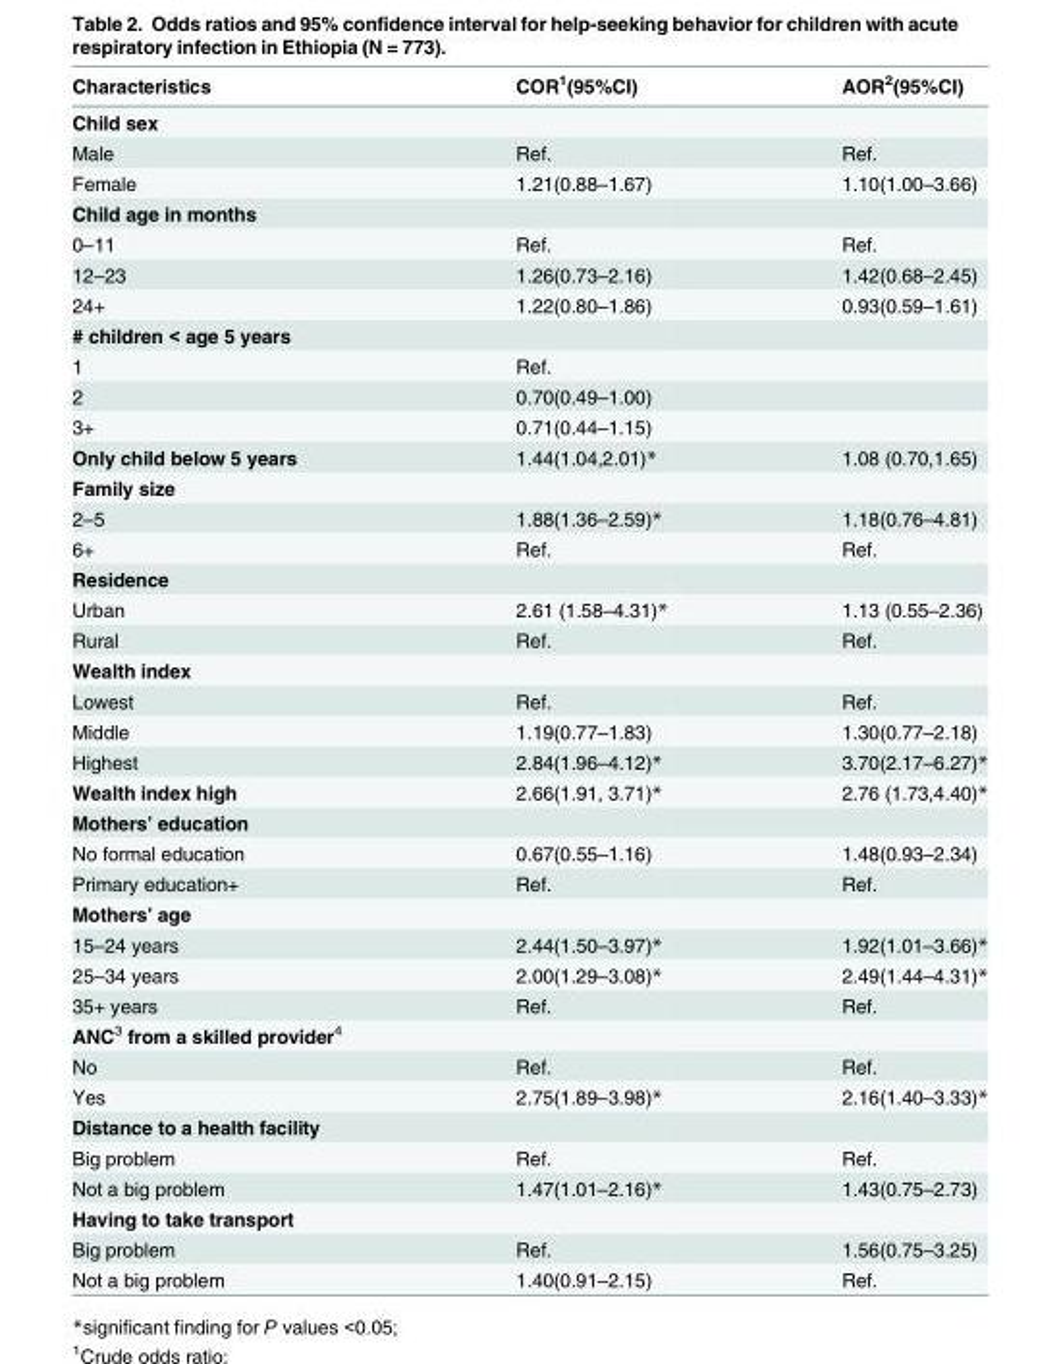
<table><thead><tr><td>Characteristics</td><td>COR<sup>1</sup>(95%CI)</td><td>AOR<sup>2</sup>(95%CI)</td></tr></thead><tbody><tr><td colspan="3">Child sex</td></tr><tr><td>Male</td><td>Ref.</td><td>Ref.</td></tr><tr><td>Female</td><td>1.21(0.88–1.67)</td><td>1.10(1.00–3.66)</td></tr><tr><td colspan="3">Child age in months</td></tr><tr><td>0–11</td><td>Ref.</td><td>Ref.</td></tr><tr><td>12–23</td><td>1.26(0.73–2.16)</td><td>1.42(0.68–2.45)</td></tr><tr><td>24+</td><td>1.22(0.80–1.86)</td><td>0.93(0.59–1.61)</td></tr><tr><td colspan="3"># children &lt; age 5 years</td></tr><tr><td>1</td><td>Ref.</td><td></td></tr><tr><td>2</td><td>0.70(0.49–1.00)</td><td></td></tr><tr><td>3+</td><td>0.71(0.44–1.15)</td><td></td></tr><tr><td>Only child below 5 years</td><td>1.44(1.04,2.01)*</td><td>1.08 (0.70,1.65)</td></tr><tr><td colspan="3">Family size</td></tr><tr><td>2–5</td><td>1.88(1.36–2.59)*</td><td>1.18(0.76–4.81)</td></tr><tr><td>6+</td><td>Ref.</td><td>Ref.</td></tr><tr><td colspan="3">Residence</td></tr><tr><td>Urban</td><td>2.61 (1.58–4.31)*</td><td>1.13 (0.55–2.36)</td></tr><tr><td>Rural</td><td>Ref.</td><td>Ref.</td></tr><tr><td colspan="3">Wealth index</td></tr><tr><td>Lowest</td><td>Ref.</td><td>Ref.</td></tr><tr><td>Middle</td><td>1.19(0.77–1.83)</td><td>1.30(0.77–2.18)</td></tr><tr><td>Highest</td><td>2.84(1.96–4.12)*</td><td>3.70(2.17–6.27)*</td></tr><tr><td>Wealth index high</td><td>2.66(1.91, 3.71)*</td><td>2.76 (1.73,4.40)*</td></tr><tr><td colspan="3">Mothers’ education</td></tr><tr><td>No formal education</td><td>0.67(0.55–1.16)</td><td>1.48(0.93–2.34)</td></tr><tr><td>Primary education+</td><td>Ref.</td><td>Ref.</td></tr><tr><td colspan="3">Mothers’ age</td></tr><tr><td>15–24 years</td><td>2.44(1.50–3.97)*</td><td>1.92(1.01–3.66)*</td></tr><tr><td>25–34 years</td><td>2.00(1.29–3.08)*</td><td>2.49(1.44–4.31)*</td></tr><tr><td>35+ years</td><td>Ref.</td><td>Ref.</td></tr><tr><td colspan="3">ANC<sup>3</sup> from a skilled provider<sup>4</sup></td></tr><tr><td>No</td><td>Ref.</td><td>Ref.</td></tr><tr><td>Yes</td><td>2.75(1.89–3.98)*</td><td>2.16(1.40–3.33)*</td></tr><tr><td colspan="3">Distance to a health facility</td></tr><tr><td>Big problem</td><td>Ref.</td><td>Ref.</td></tr><tr><td>Not a big problem</td><td>1.47(1.01–2.16)*</td><td>1.43(0.75–2.73)</td></tr><tr><td colspan="3">Having to take transport</td></tr><tr><td>Big problem</td><td>Ref.</td><td>1.56(0.75–3.25)</td></tr><tr><td>Not a big problem</td><td>1.40(0.91–2.15)</td><td>Ref.</td></tr></tbody></table>